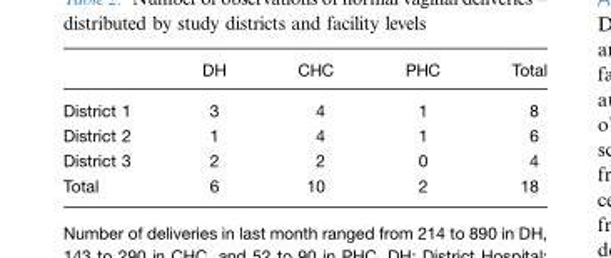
<table><thead><tr><td></td><td>DH</td><td>CHC</td><td>PHC</td><td>Total</td></tr></thead><tbody><tr><td>District 1</td><td>3</td><td>4</td><td>1</td><td>8</td></tr><tr><td>District 2</td><td>1</td><td>4</td><td>1</td><td>6</td></tr><tr><td>District 3</td><td>2</td><td>2</td><td>0</td><td>4</td></tr><tr><td>Total</td><td>6</td><td>10</td><td>2</td><td>18</td></tr></tbody></table>